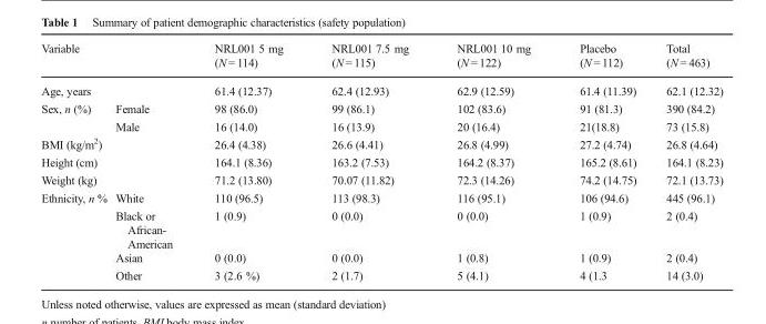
<table><thead><tr><td>Variable</td><td></td><td>NRL001 5 mg (N = 114)</td><td>NRL001 7.5 mg (N = 115)</td><td>NRL001 10 mg (N = 122)</td><td>Placebo (N = 112)</td><td>Total (N = 463)</td></tr></thead><tbody><tr><td>Age, years</td><td></td><td>61.4 (12.37)</td><td>62.4 (12.93)</td><td>62.9 (12.59)</td><td>61.4 (11.39)</td><td>62.1 (12.32)</td></tr><tr><td rowspan="2">Sex, n (%)</td><td>Female</td><td>98 (86.0)</td><td>99 (86.1)</td><td>102 (83.6)</td><td>91 (81.3)</td><td>390 (84.2)</td></tr><tr><td>Male</td><td>16 (14.0)</td><td>16 (13.9)</td><td>20 (16.4)</td><td>21(18.8)</td><td>73 (15.8)</td></tr><tr><td>BMI (kg/m<sup>2</sup>)</td><td></td><td>26.4 (4.38)</td><td>26.6 (4.41)</td><td>26.8 (4.99)</td><td>27.2 (4.74)</td><td>26.8 (4.64)</td></tr><tr><td>Height (cm)</td><td></td><td>164.1 (8.36)</td><td>163.2 (7.53)</td><td>164.2 (8.37)</td><td>165.2 (8.61)</td><td>164.1 (8.23)</td></tr><tr><td>Weight (kg)</td><td></td><td>71.2 (13.80)</td><td>70.07 (11.82)</td><td>72.3 (14.26)</td><td>74.2 (14.75)</td><td>72.1 (13.73)</td></tr><tr><td rowspan="4">Ethnicity, n %</td><td>White</td><td>110 (96.5)</td><td>113 (98.3)</td><td>116 (95.1)</td><td>106 (94.6)</td><td>445 (96.1)</td></tr><tr><td>Black or African- American</td><td>1 (0.9)</td><td>0 (0.0)</td><td>0 (0.0)</td><td>1 (0.9)</td><td>2 (0.4)</td></tr><tr><td>Asian</td><td>0 (0.0)</td><td>0 (0.0)</td><td>1 (0.8)</td><td>1 (0.9)</td><td>2 (0.4)</td></tr><tr><td>Other</td><td>3 (2.6 %)</td><td>2 (1.7)</td><td>5 (4.1)</td><td>4 (1.3</td><td>14 (3.0)</td></tr></tbody></table>